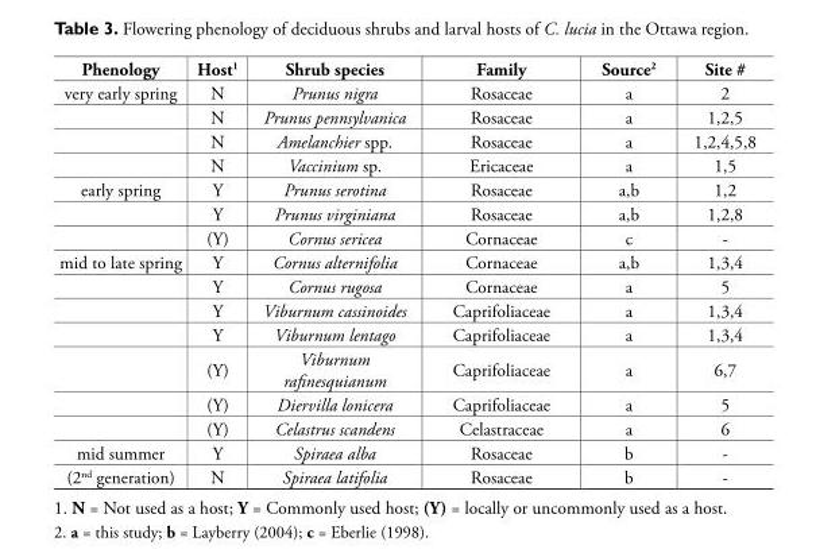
<table><thead><tr><td>Phenology</td><td>Host<sup>1</sup></td><td>Shrub species</td><td>Family</td><td>Source<sup>2</sup></td><td>Site #</td></tr></thead><tbody><tr><td rowspan="4">very early spring</td><td>N</td><td>Prunus nigra</td><td>Rosaceae</td><td>a</td><td>2</td></tr><tr><td>N</td><td>Prunus pennsylvanica</td><td>Rosaceae</td><td>a</td><td>1,2,5</td></tr><tr><td>N</td><td>Amelanchier spp.</td><td>Rosaceae</td><td>a</td><td>1,2,4,5,8</td></tr><tr><td>N</td><td>Vaccinium sp.</td><td>Ericaceae</td><td>a</td><td>1,5</td></tr><tr><td rowspan="3">early spring</td><td>Y</td><td>Prunus serotina</td><td>Rosaceae</td><td>a,b</td><td>1,2</td></tr><tr><td>Y</td><td>Prunus virginiana</td><td>Rosaceae</td><td>a,b</td><td>1,2,8</td></tr><tr><td>(Y)</td><td>Cornus sericea</td><td>Cornaceae</td><td>c</td><td>-</td></tr><tr><td rowspan="7">mid to late spring</td><td>Y</td><td>Cornus alternifolia</td><td>Cornaceae</td><td>a,b</td><td>1,3,4</td></tr><tr><td>Y</td><td>Cornus rugosa</td><td>Cornaceae</td><td>a</td><td>5</td></tr><tr><td>Y</td><td>Viburnum cassinoides</td><td>Caprifoliaceae</td><td>a</td><td>1,3,4</td></tr><tr><td>Y</td><td>Viburnum lentago</td><td>Caprifoliaceae</td><td>a</td><td>1,3,4</td></tr><tr><td>(Y)</td><td>Viburnum rafinesquianum</td><td>Caprifoliaceae</td><td>a</td><td>6,7</td></tr><tr><td>(Y)</td><td>Diervilla lonicera</td><td>Caprifoliaceae</td><td>a</td><td>5</td></tr><tr><td>(Y)</td><td>Celastrus scandens</td><td>Celastraceae</td><td>a</td><td>6</td></tr><tr><td>mid summer</td><td>Y</td><td>Spiraea alba</td><td>Rosaceae</td><td>b</td><td>-</td></tr><tr><td>(2<sup>nd</sup> generation)</td><td>N</td><td>Spiraea latifolia</td><td>Rosaceae</td><td>b</td><td>-</td></tr></tbody></table>